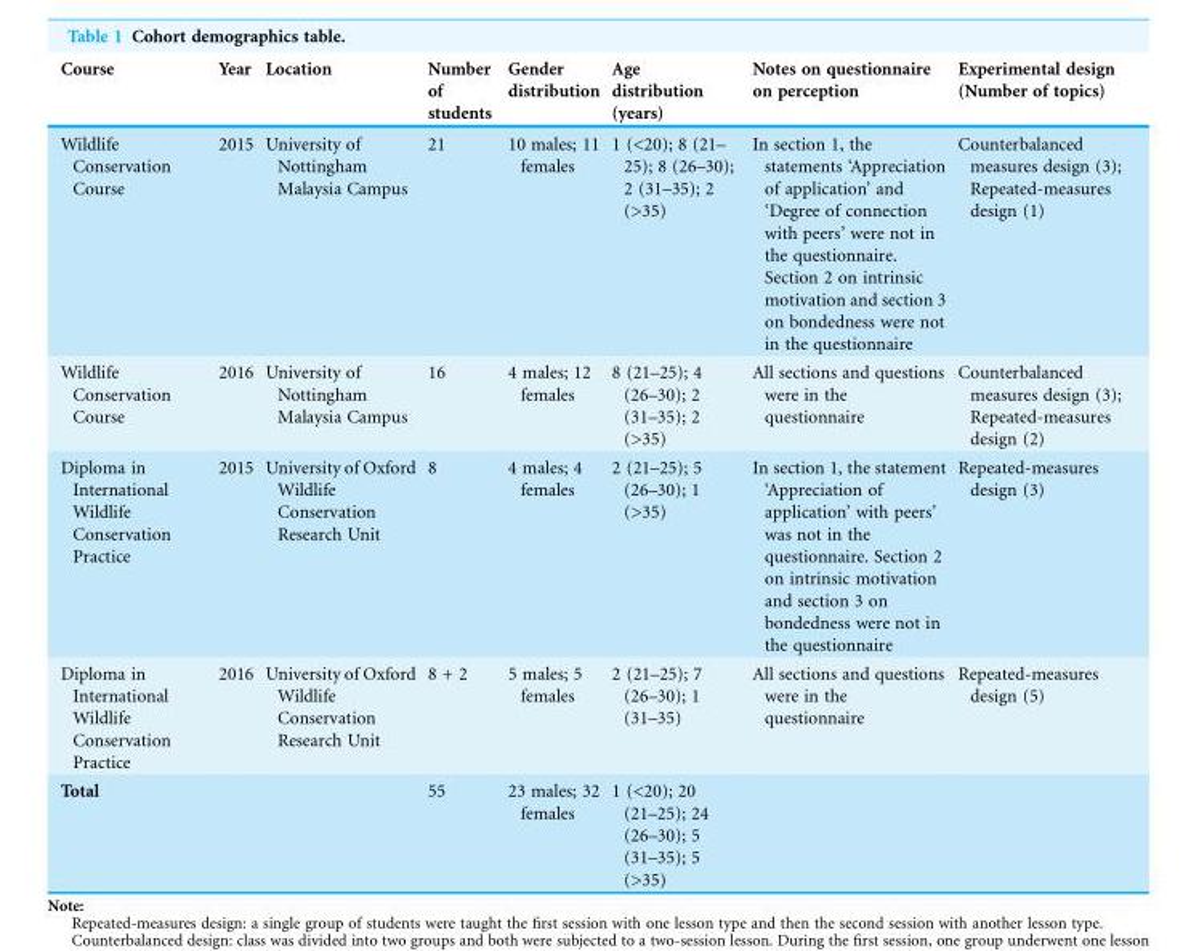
<table><thead><tr><td>Course</td><td>Year</td><td>Location</td><td>Number of students</td><td>Gender distribution</td><td>Age distribution (years)</td><td>Notes on questionnaire on perception</td><td>Experimental design (Number of topics)</td></tr></thead><tbody><tr><td>Wildlife Conservation Course</td><td>2015</td><td>University of Nottingham Malaysia Campus</td><td>21</td><td>10 males; 11 females</td><td>1 (&lt;20); 8 (21– 25); 8 (26–30); 2 (31–35); 2 (&gt;35)</td><td>In section 1, the statements ‘Appreciation of application’ and ‘Degree of connection with peers’ were not in the questionnaire. Section 2 on intrinsic motivation and section 3 on bondedness were not in the questionnaire</td><td>Counterbalanced measures design (3); Repeated-measures design (1)</td></tr><tr><td>Wildlife Conservation Course</td><td>2016</td><td>University of Nottingham Malaysia Campus</td><td>16</td><td>4 males; 12 females</td><td>8 (21–25); 4 (26–30); 2 (31–35); 2 (&gt;35)</td><td>All sections and questions were in the questionnaire</td><td>Counterbalanced measures design (3); Repeated-measures design (2)</td></tr><tr><td>Diploma in International Wildlife Conservation Practice</td><td>2015</td><td>University of Oxford Wildlife Conservation Research Unit</td><td>8</td><td>4 males; 4 females</td><td>2 (21–25); 5 (26–30); 1 (&gt;35)</td><td>In section 1, the statement ‘Appreciation of application’ with peers’ was not in the questionnaire. Section 2 on intrinsic motivation and section 3 on bondedness were not in the questionnaire</td><td>Repeated-measures design (3)</td></tr><tr><td>Diploma in International Wildlife Conservation Practice</td><td>2016</td><td>University of Oxford Wildlife Conservation Research Unit</td><td>8 + 2</td><td>5 males; 5 females</td><td>2 (21–25); 7 (26–30); 1 (31–35)</td><td>All sections and questions were in the questionnaire</td><td>Repeated-measures design (5)</td></tr><tr><td>Total</td><td></td><td></td><td>55</td><td>23 males; 32 females</td><td>1 (&lt;20); 20 (21–25); 24 (26–30); 5 (31–35); 5 (&gt;35)</td><td></td><td></td></tr></tbody></table>